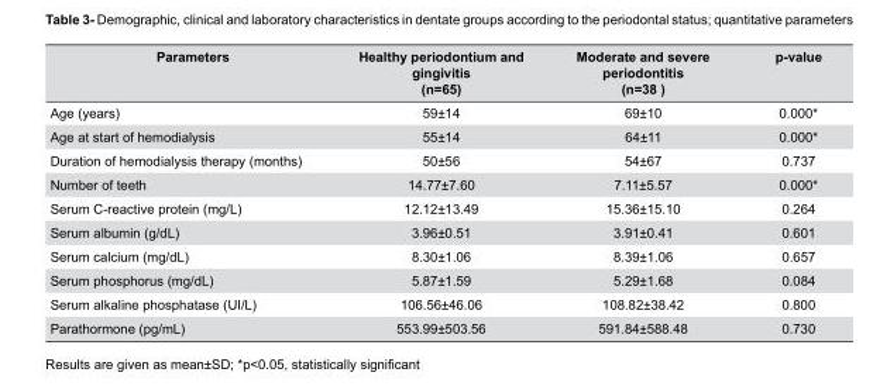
<table><thead><tr><td>Parameters</td><td>Healthy periodontium and gingivitis (n=65)</td><td>Moderate and severe periodontitis (n=38 )</td><td>p-value</td></tr></thead><tbody><tr><td>Age (years)</td><td>59±14</td><td>69±10</td><td>0.000*</td></tr><tr><td>Age at start of hemodialysis</td><td>55±14</td><td>64±11</td><td>0.000*</td></tr><tr><td>Duration of hemodialysis therapy (months)</td><td>50±56</td><td>54±67</td><td>0.737</td></tr><tr><td>Number of teeth</td><td>14.77±7.60</td><td>7.11±5.57</td><td>0.000*</td></tr><tr><td>Serum C-reactive protein (mg/L)</td><td>12.12±13.49</td><td>15.36±15.10</td><td>0.264</td></tr><tr><td>Serum albumin (g/dL)</td><td>3.96±0.51</td><td>3.91±0.41</td><td>0.601</td></tr><tr><td>Serum calcium (mg/dL)</td><td>8.30±1.06</td><td>8.39±1.06</td><td>0.657</td></tr><tr><td>Serum phosphorus (mg/dL)</td><td>5.87±1.59</td><td>5.29±1.68</td><td>0.084</td></tr><tr><td>Serum alkaline phosphatase (UI/L)</td><td>106.56±46.06</td><td>108.82±38.42</td><td>0.800</td></tr><tr><td>Parathormone (pg/mL)</td><td>553.99±503.56</td><td>591.84±588.48</td><td>0.730</td></tr></tbody></table>